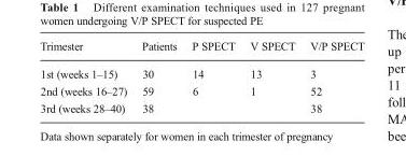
<table><thead><tr><td>Trimester</td><td>Patients</td><td>P SPECT</td><td>V SPECT</td><td>V/P SPECT</td></tr></thead><tbody><tr><td>1st (weeks 1–15)</td><td>30</td><td>14</td><td>13</td><td>3</td></tr><tr><td>2nd (weeks 16–27)</td><td>59</td><td>6</td><td>1</td><td>52</td></tr><tr><td>3rd (weeks 28–40)</td><td>38</td><td></td><td></td><td>38</td></tr></tbody></table>